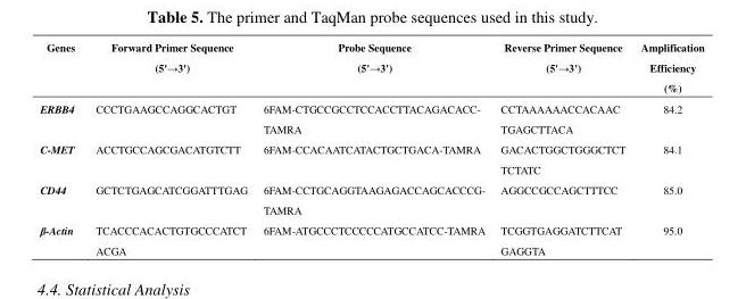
<table><thead><tr><td>Genes</td><td>Forward Primer Sequence (5&#x27;→3&#x27;)</td><td>Probe Sequence (5&#x27;→3&#x27;)</td><td>Reverse Primer Sequence (5&#x27;→3&#x27;)</td><td>Amplification Efficiency (%)</td></tr></thead><tbody><tr><td>ERBB4</td><td>CCCTGAAGCCAGGCACTGT</td><td>6FAM-CTGCCGCCTCCACCTTACAGACACC- TAMRA</td><td>CCTAAAAAACCACAAC TGAGCTTACA</td><td>84.2</td></tr><tr><td>C-MET</td><td>ACCTGCCAGCGACATGTCTT</td><td>6FAM-CCACAATCATACTGCTGACA-TAMRA</td><td>GACACTGGCTGGGCTCT TCTATC</td><td>84.1</td></tr><tr><td>CD44</td><td>GCTCTGAGCATCGGATTTGAG</td><td>6FAM-CCTGCAGGTAAGAGACCAGCACCCG- TAMRA</td><td>AGGCCGCCAGCTTTCC</td><td>85.0</td></tr><tr><td>β-Actin</td><td>TCACCCACACTGTGCCCATCT ACGA</td><td>6FAM-ATGCCCTCCCCCATGCCATCC-TAMRA</td><td>TCGGTGAGGATCTTCAT GAGGTA</td><td>95.0</td></tr></tbody></table>